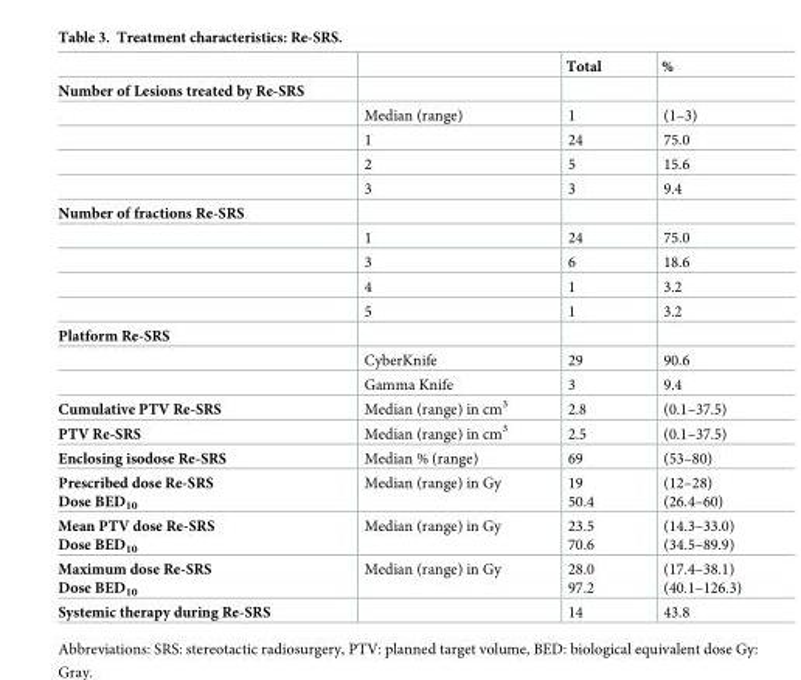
<table><thead><tr><td></td><td></td><td>Total</td><td>%</td></tr></thead><tbody><tr><td colspan="4">Number of Lesions treated by Re-SRS</td></tr><tr><td></td><td>Median (range)</td><td>1</td><td>(1–3)</td></tr><tr><td></td><td>1</td><td>24</td><td>75.0</td></tr><tr><td></td><td>2</td><td>5</td><td>15.6</td></tr><tr><td></td><td>3</td><td>3</td><td>9.4</td></tr><tr><td colspan="4">Number of fractions Re-SRS</td></tr><tr><td></td><td>1</td><td>24</td><td>75.0</td></tr><tr><td></td><td>3</td><td>6</td><td>18.6</td></tr><tr><td></td><td>4</td><td>1</td><td>3.2</td></tr><tr><td></td><td>5</td><td>1</td><td>3.2</td></tr><tr><td colspan="4">Platform Re-SRS</td></tr><tr><td></td><td>CyberKnife</td><td>29</td><td>90.6</td></tr><tr><td></td><td>Gamma Knife</td><td>3</td><td>9.4</td></tr><tr><td>Cumulative PTV Re-SRS</td><td>Median (range) in cm<sup>3</sup></td><td>2.8</td><td>(0.1–37.5)</td></tr><tr><td>PTV Re-SRS</td><td>Median (range) in cm<sup>3</sup></td><td>2.5</td><td>(0.1–37.5)</td></tr><tr><td>Enclosing isodose Re-SRS</td><td>Median % (range)</td><td>69</td><td>(53–80)</td></tr><tr><td>Prescribed dose Re-SRS Dose BED<sub>10</sub></td><td>Median (range) in Gy</td><td>19 50.4</td><td>(12–28) (26.4–60)</td></tr><tr><td>Mean PTV dose Re-SRS Dose BED<sub>10</sub></td><td>Median (range) in Gy</td><td>23.5 70.6</td><td>(14.3–33.0) (34.5–89.9)</td></tr><tr><td>Maximum dose Re-SRS Dose BED<sub>10</sub></td><td>Median (range) in Gy</td><td>28.0 97.2</td><td>(17.4–38.1) (40.1–126.3)</td></tr><tr><td>Systemic therapy during Re-SRS</td><td></td><td>14</td><td>43.8</td></tr></tbody></table>